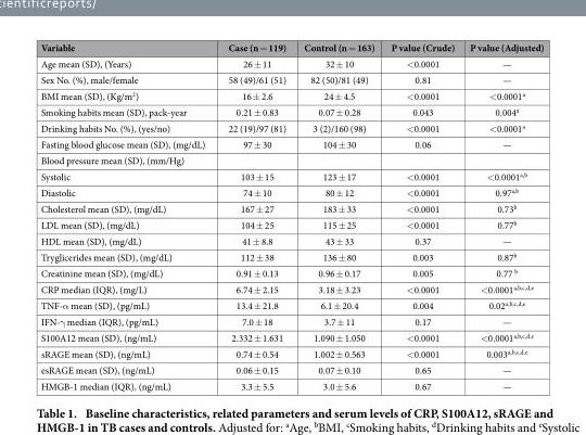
<table><thead><tr><td>Variable</td><td>Case (n = 119)</td><td>Control (n = 163)</td><td>P value (Crude)</td><td>P value (Adjusted)</td></tr></thead><tbody><tr><td>Age mean (SD), (Years)</td><td>26 ± 11</td><td>32 ± 10</td><td>&lt; 0.0001</td><td>—</td></tr><tr><td>Sex No. (%), male/female</td><td>58 (49)/61 (51)</td><td>82 (50)/81 (49)</td><td>0.81</td><td>—</td></tr><tr><td>BMI mean (SD), (Kg/m<sup>2</sup>)</td><td>16 ± 2.6</td><td>24 ± 4.5</td><td>&lt; 0.0001</td><td>&lt; 0.0001<sup>a</sup></td></tr><tr><td>Smoking habits mean (SD), pack-year</td><td>0.21 ± 0.83</td><td>0.07 ± 0.28</td><td>0.043</td><td>0.004<sup>a</sup></td></tr><tr><td>Drinking habits No. (%), (yes/no)</td><td>22 (19)/97 (81)</td><td>3 (2)/160 (98)</td><td>&lt; 0.0001</td><td>&lt; 0.0001<sup>a</sup></td></tr><tr><td>Fasting blood glucose mean (SD), (mg/dL)</td><td>97 ± 30</td><td>104 ± 30</td><td>0.06</td><td>—</td></tr><tr><td colspan="5">Blood pressure mean (SD), (mm/Hg)</td></tr><tr><td>Systolic</td><td>103 ± 15</td><td>123 ± 17</td><td>&lt; 0.0001</td><td>&lt; 0.0001<sup>a,b</sup></td></tr><tr><td>Diastolic</td><td>74 ± 10</td><td>80 ± 12</td><td>&lt; 0.0001</td><td>0.97<sup>a,b</sup></td></tr><tr><td>Cholesterol mean (SD), (mg/dL)</td><td>167 ± 27</td><td>183 ± 33</td><td>&lt; 0.0001</td><td>0.73<sup>b</sup></td></tr><tr><td>LDL mean (SD), (mg/dL)</td><td>104 ± 25</td><td>115 ± 25</td><td>&lt; 0.0001</td><td>0.77<sup>b</sup></td></tr><tr><td>HDL mean (SD), (mg/dL)</td><td>41 ± 8.8</td><td>43 ± 33</td><td>0.37</td><td>—</td></tr><tr><td>Tryglicerides mean (SD), (mg/dL)</td><td>112 ± 38</td><td>136 ± 80</td><td>0.003</td><td>0.87<sup>b</sup></td></tr><tr><td>Creatinine mean (SD), (mg/dL)</td><td>0.91 ± 0.13</td><td>0.96 ± 0.17</td><td>0.005</td><td>0.77 <sup>b</sup></td></tr><tr><td>CRP median (IQR), (mg/L)</td><td>6.74 ± 2.15</td><td>3.18 ± 3.23</td><td>&lt; 0.0001</td><td>&lt; 0.0001<sup>a,b,c,d,e</sup></td></tr><tr><td>TNF-α mean (SD), (pg/mL)</td><td>13.4 ± 21.8</td><td>6.1 ± 20.4</td><td>0.004</td><td>0.02<sup>a,b,c,d,e</sup></td></tr><tr><td>IFN-γ median (IQR), (pg/mL)</td><td>7.0 ± 18</td><td>3.7 ± 11</td><td>0.17</td><td>—</td></tr><tr><td>S100A12 mean (SD), (ng/mL)</td><td>2.332 ± 1.631</td><td>1.090 ± 1.050</td><td>&lt; 0.0001</td><td>&lt; 0.0001<sup>a,b,c,d,e</sup></td></tr><tr><td>sRAGE mean (SD), (ng/mL)</td><td>0.74 ± 0.54</td><td>1.002 ± 0.563</td><td>&lt; 0.0001</td><td>0.003<sup>a,b,c,d,e</sup></td></tr><tr><td>esRAGE mean (SD), (ng/mL)</td><td>0.06 ± 0.15</td><td>0.07 ± 0.10</td><td>0.65</td><td>—</td></tr><tr><td>HMGB-1 median (IQR), (ng/mL)</td><td>3.3 ± 5.5</td><td>3.0 ± 5.6</td><td>0.67</td><td>—</td></tr></tbody></table>